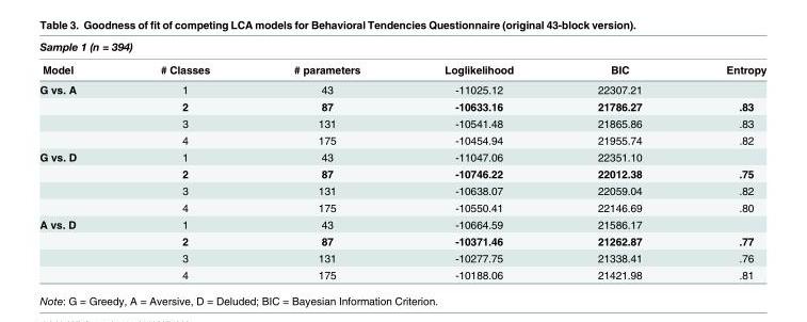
<table><thead><tr><td colspan="6">Sample 1 (n = 394)</td></tr><tr><td>Model</td><td># Classes</td><td># parameters</td><td>Loglikelihood</td><td>BIC</td><td>Entropy</td></tr></thead><tbody><tr><td rowspan="4">G vs. A</td><td>1</td><td>43</td><td>-11025.12</td><td>22307.21</td><td></td></tr><tr><td>2</td><td>87</td><td>-10633.16</td><td>21786.27</td><td>.83</td></tr><tr><td>3</td><td>131</td><td>-10541.48</td><td>21865.86</td><td>.83</td></tr><tr><td>4</td><td>175</td><td>-10454.94</td><td>21955.74</td><td>.82</td></tr><tr><td rowspan="4">G vs. D</td><td>1</td><td>43</td><td>-11047.06</td><td>22351.10</td><td></td></tr><tr><td>2</td><td>87</td><td>-10746.22</td><td>22012.38</td><td>.75</td></tr><tr><td>3</td><td>131</td><td>-10638.07</td><td>22059.04</td><td>.82</td></tr><tr><td>4</td><td>175</td><td>-10550.41</td><td>22146.69</td><td>.80</td></tr><tr><td rowspan="4">A vs. D</td><td>1</td><td>43</td><td>-10664.59</td><td>21586.17</td><td></td></tr><tr><td>2</td><td>87</td><td>-10371.46</td><td>21262.87</td><td>.77</td></tr><tr><td>3</td><td>131</td><td>-10277.75</td><td>21338.41</td><td>.76</td></tr><tr><td>4</td><td>175</td><td>-10188.06</td><td>21421.98</td><td>.81</td></tr></tbody></table>